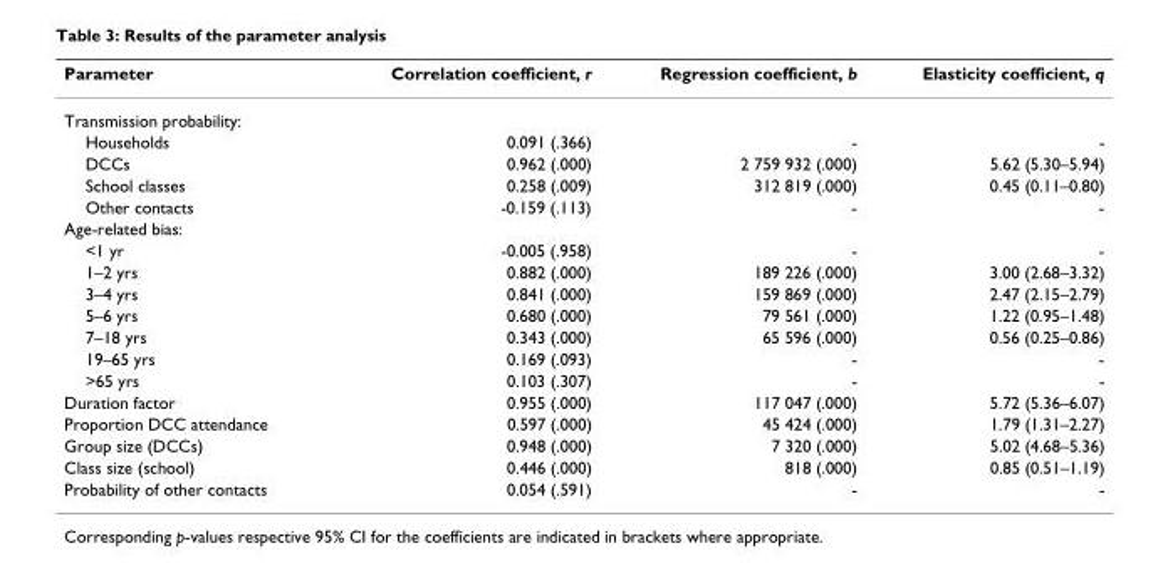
<table><thead><tr><td>Parameter</td><td>Correlation coefficient, r</td><td>Regression coefficient, b</td><td>Elasticity coefficient, q</td></tr></thead><tbody><tr><td colspan="4">Transmission probability:</td></tr><tr><td>Households</td><td>0.091 (.366)</td><td>-</td><td>-</td></tr><tr><td>DCCs</td><td>0.962 (.000)</td><td>2 759 932 (.000)</td><td>5.62 (5.30–5.94)</td></tr><tr><td>School classes</td><td>0.258 (.009)</td><td>312 819 (.000)</td><td>0.45 (0.11–0.80)</td></tr><tr><td>Other contacts</td><td>-0.159 (.113)</td><td>-</td><td>-</td></tr><tr><td colspan="4">Age-related bias:</td></tr><tr><td>&lt;1 yr</td><td>-0.005 (.958)</td><td>-</td><td>-</td></tr><tr><td>1–2 yrs</td><td>0.882 (.000)</td><td>189 226 (.000)</td><td>3.00 (2.68–3.32)</td></tr><tr><td>3–4 yrs</td><td>0.841 (.000)</td><td>159 869 (.000)</td><td>2.47 (2.15–2.79)</td></tr><tr><td>5–6 yrs</td><td>0.680 (.000)</td><td>79 561 (.000)</td><td>1.22 (0.95–1.48)</td></tr><tr><td>7–18 yrs</td><td>0.343 (.000)</td><td>65 596 (.000)</td><td>0.56 (0.25–0.86)</td></tr><tr><td>19–65 yrs</td><td>0.169 (.093)</td><td>-</td><td>-</td></tr><tr><td>&gt;65 yrs</td><td>0.103 (.307)</td><td>-</td><td>-</td></tr><tr><td>Duration factor</td><td>0.955 (.000)</td><td>117 047 (.000)</td><td>5.72 (5.36–6.07)</td></tr><tr><td>Proportion DCC attendance</td><td>0.597 (.000)</td><td>45 424 (.000)</td><td>1.79 (1.31–2.27)</td></tr><tr><td>Group size (DCCs)</td><td>0.948 (.000)</td><td>7 320 (.000)</td><td>5.02 (4.68–5.36)</td></tr><tr><td>Class size (school)</td><td>0.446 (.000)</td><td>818 (.000)</td><td>0.85 (0.51–1.19)</td></tr><tr><td>Probability of other contacts</td><td>0.054 (.591)</td><td>-</td><td>-</td></tr></tbody></table>